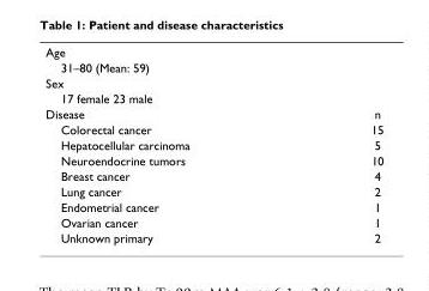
<table><tbody><tr><td colspan="2">Age</td></tr><tr><td colspan="2">31–80 (Mean: 59)</td></tr><tr><td colspan="2">Sex</td></tr><tr><td colspan="2">17 female 23 male</td></tr><tr><td>Disease</td><td>n</td></tr><tr><td>Colorectal cancer</td><td>15</td></tr><tr><td>Hepatocellular carcinoma</td><td>5</td></tr><tr><td>Neuroendocrine tumors</td><td>10</td></tr><tr><td>Breast cancer</td><td>4</td></tr><tr><td>Lung cancer</td><td>2</td></tr><tr><td>Endometrial cancer</td><td>1</td></tr><tr><td>Ovarian cancer</td><td>1</td></tr><tr><td>Unknown primary</td><td>2</td></tr></tbody></table>